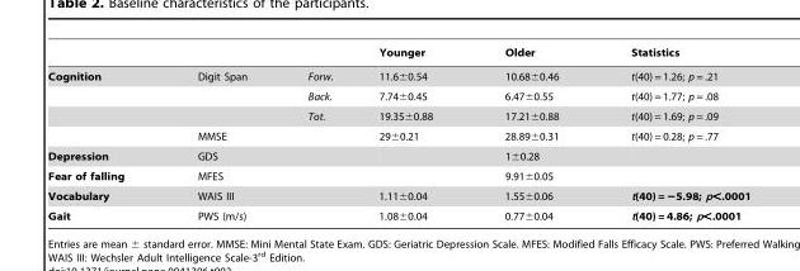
<table><thead><tr><td></td><td></td><td></td><td>Younger</td><td>Older</td><td>Statistics</td></tr></thead><tbody><tr><td rowspan="4">Cognition</td><td>Digit Span</td><td>Forw.</td><td>11.6±0.54</td><td>10.68±0.46</td><td>t(40) = 1.26; p = .21</td></tr><tr><td></td><td>Back.</td><td>7.74±0.45</td><td>6.47±0.55</td><td>t(40) = 1.77; p = .08</td></tr><tr><td></td><td>Tot.</td><td>19.35±0.88</td><td>17.21±0.88</td><td>t(40) = 1.69; p = .09</td></tr><tr><td colspan="2">MMSE</td><td>29±0.21</td><td>28.89±0.31</td><td>t(40) = 0.28; p = .77</td></tr><tr><td>Depression</td><td colspan="2">GDS</td><td></td><td>1±0.28</td><td></td></tr><tr><td>Fear of falling</td><td colspan="2">MFES</td><td></td><td>9.91±0.05</td><td></td></tr><tr><td>Vocabulary</td><td colspan="2">WAIS III</td><td>1.11±0.04</td><td>1.55±0.06</td><td>t(40) = −5.98; p&lt;.0001</td></tr><tr><td>Gait</td><td colspan="2">PWS (m/s)</td><td>1.08±0.04</td><td>0.77±0.04</td><td>t(40) = 4.86; p&lt;.0001</td></tr></tbody></table>